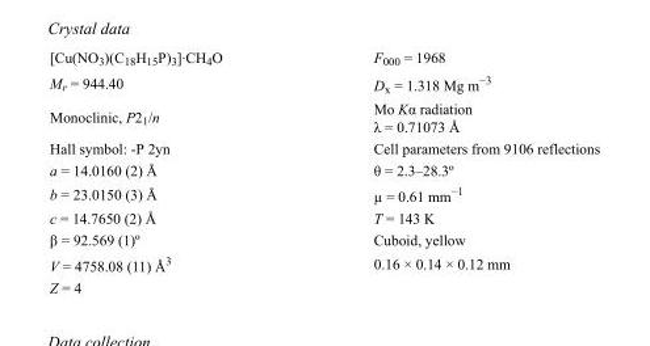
<table><tbody><tr><td>[Cu(NO<sub>3</sub>)(C<sub>18</sub>H<sub>15</sub>P)<sub>3</sub>]·CH<sub>4</sub>O</td><td>F000 = 1968</td></tr><tr><td>M<sub>r</sub> = 944.40</td><td>D<sub>x</sub> = 1.318 Mg m<sup>−3</sup></td></tr><tr><td>Monoclinic, P2<sub>1</sub>/n</td><td>Mo Kα radiation λ = 0.71073 Å</td></tr><tr><td>Hall symbol: -P 2yn</td><td>Cell parameters from 9106 reflections</td></tr><tr><td>a = 14.0160 (2) Å</td><td>θ = 2.3–28.3º</td></tr><tr><td>b = 23.0150 (3) Å</td><td>µ = 0.61 mm<sup>−1</sup></td></tr><tr><td>c = 14.7650 (2) Å</td><td>T = 143 K</td></tr><tr><td>β = 92.569 (1)º</td><td>Cuboid, yellow</td></tr><tr><td>V = 4758.08 (11) Å<sup>3</sup></td><td>0.16 × 0.14 × 0.12 mm</td></tr><tr><td>Z = 4</td><td></td></tr></tbody></table>